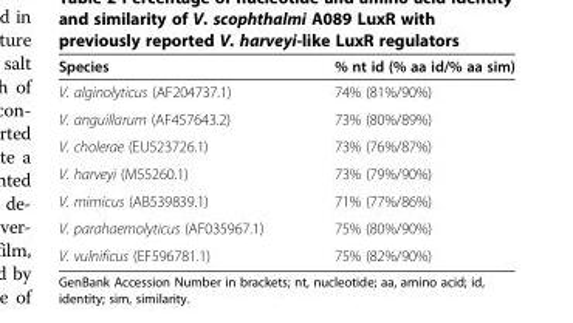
<table><thead><tr><td>Species</td><td>% nt id (% aa id/% aa sim)</td></tr></thead><tbody><tr><td>V. alginolyticus (AF204737.1)</td><td>74% (81%/90%)</td></tr><tr><td>V. anguillarum (AF457643.2)</td><td>73% (80%/89%)</td></tr><tr><td>V. cholerae (EU523726.1)</td><td>73% (76%/87%)</td></tr><tr><td>V. harveyi (M55260.1)</td><td>73% (79%/90%)</td></tr><tr><td>V. mimicus (AB539839.1)</td><td>71% (77%/86%)</td></tr><tr><td>V. parahaemolyticus (AF035967.1)</td><td>75% (80%/90%)</td></tr><tr><td>V. vulnificus (EF596781.1)</td><td>75% (82%/90%)</td></tr></tbody></table>